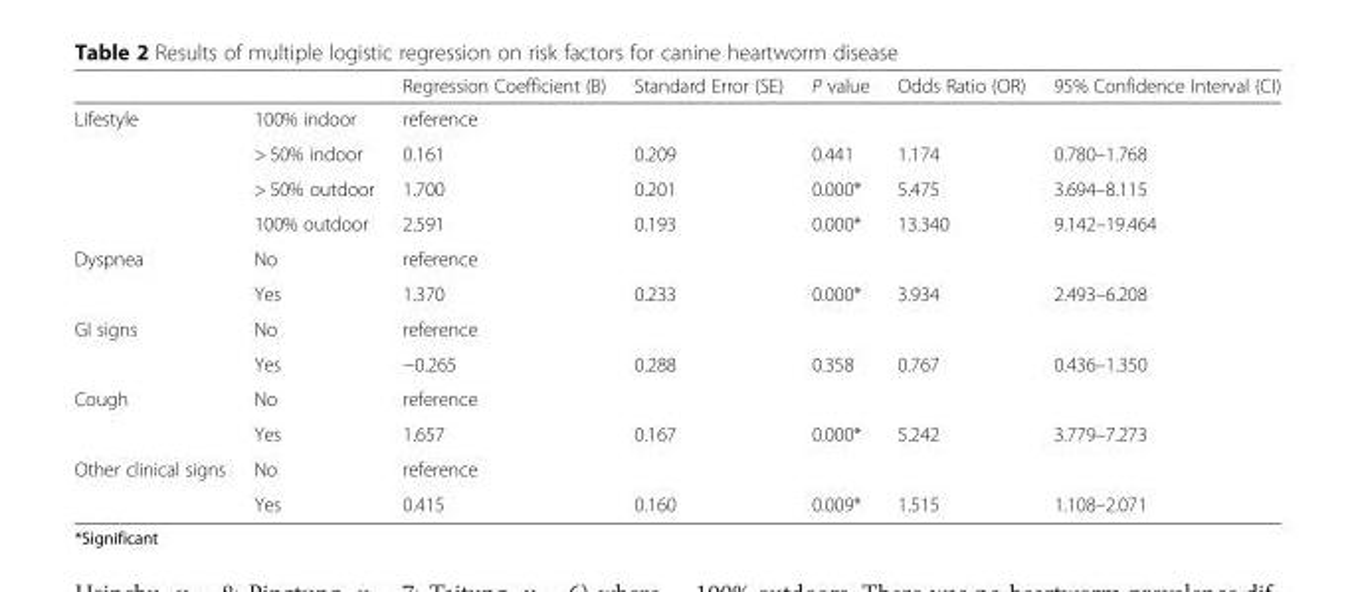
<table><thead><tr><td></td><td></td><td>Regression Coefficient (B)</td><td>Standard Error (SE)</td><td>P value</td><td>Odds Ratio (OR)</td><td>95% Confidence Interval (CI)</td></tr></thead><tbody><tr><td rowspan="4">Lifestyle</td><td>100% indoor</td><td>reference</td><td></td><td></td><td></td><td></td></tr><tr><td>&gt; 50% indoor</td><td>0.161</td><td>0.209</td><td>0.441</td><td>1.174</td><td>0.780–1.768</td></tr><tr><td>&gt; 50% outdoor</td><td>1.700</td><td>0.201</td><td>0.000*</td><td>5.475</td><td>3.694–8.115</td></tr><tr><td>100% outdoor</td><td>2.591</td><td>0.193</td><td>0.000*</td><td>13.340</td><td>9.142–19.464</td></tr><tr><td rowspan="2">Dyspnea</td><td>No</td><td>reference</td><td></td><td></td><td></td><td></td></tr><tr><td>Yes</td><td>1.370</td><td>0.233</td><td>0.000*</td><td>3.934</td><td>2.493–6.208</td></tr><tr><td rowspan="2">GI signs</td><td>No</td><td>reference</td><td></td><td></td><td></td><td></td></tr><tr><td>Yes</td><td>−0.265</td><td>0.288</td><td>0.358</td><td>0.767</td><td>0.436–1.350</td></tr><tr><td rowspan="2">Cough</td><td>No</td><td>reference</td><td></td><td></td><td></td><td></td></tr><tr><td>Yes</td><td>1.657</td><td>0.167</td><td>0.000*</td><td>5.242</td><td>3.779–7.273</td></tr><tr><td rowspan="2">Other clinical signs</td><td>No</td><td>reference</td><td></td><td></td><td></td><td></td></tr><tr><td>Yes</td><td>0.415</td><td>0.160</td><td>0.009*</td><td>1.515</td><td>1.108–2.071</td></tr></tbody></table>